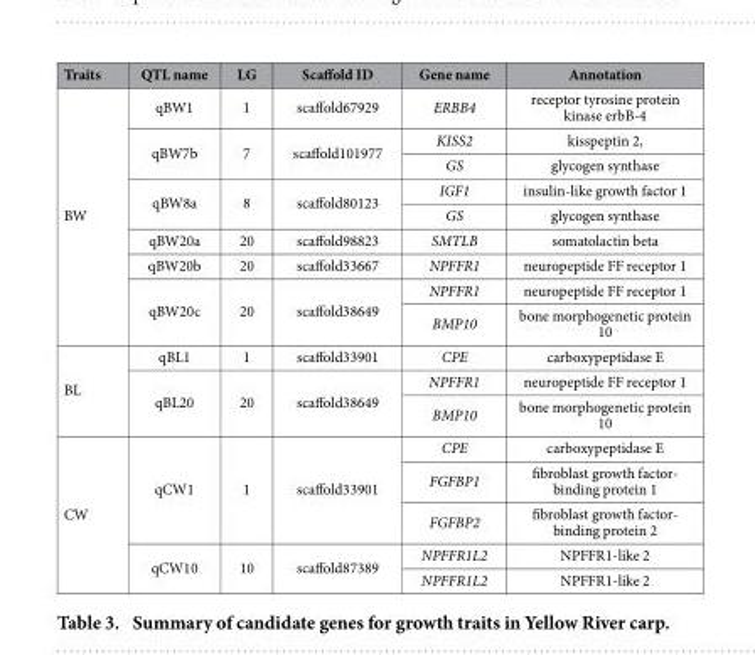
<table><thead><tr><td>Traits</td><td>QTL name</td><td>LG</td><td>Scaffold ID</td><td>Gene name</td><td>Annotation</td></tr></thead><tbody><tr><td rowspan="9">BW</td><td>qBW1</td><td>1</td><td>scaffold67929</td><td>ERBB4</td><td>receptor tyrosine protein kinase erbB-4</td></tr><tr><td rowspan="2">qBW7b</td><td rowspan="2">7</td><td rowspan="2">scaffold101977</td><td>KISS2</td><td>kisspeptin 2,</td></tr><tr><td>GS</td><td>glycogen synthase</td></tr><tr><td rowspan="2">qBW8a</td><td rowspan="2">8</td><td rowspan="2">scaffold80123</td><td>IGF1</td><td>insulin-like growth factor 1</td></tr><tr><td>GS</td><td>glycogen synthase</td></tr><tr><td>qBW20a</td><td>20</td><td>scaffold98823</td><td>SMTLB</td><td>somatolactin beta</td></tr><tr><td>qBW20b</td><td>20</td><td>scaffold33667</td><td>NPFFR1</td><td>neuropeptide FF receptor 1</td></tr><tr><td rowspan="2">qBW20c</td><td rowspan="2">20</td><td rowspan="2">scaffold38649</td><td>NPFFR1</td><td>neuropeptide FF receptor 1</td></tr><tr><td>BMP10</td><td>bone morphogenetic protein 10</td></tr><tr><td rowspan="3">BL</td><td>qBL1</td><td>1</td><td>scaffold33901</td><td>CPE</td><td>carboxypeptidase E</td></tr><tr><td rowspan="2">qBL20</td><td rowspan="2">20</td><td rowspan="2">scaffold38649</td><td>NPFFR1</td><td>neuropeptide FF receptor 1</td></tr><tr><td>BMP10</td><td>bone morphogenetic protein 10</td></tr><tr><td rowspan="5">CW</td><td rowspan="3">qCW1</td><td rowspan="3">1</td><td rowspan="3">scaffold33901</td><td>CPE</td><td>carboxypeptidase E</td></tr><tr><td>FGFBP1</td><td>fibroblast growth factor- binding protein 1</td></tr><tr><td>FGFBP2</td><td>fibroblast growth factor- binding protein 2</td></tr><tr><td rowspan="2">qCW10</td><td rowspan="2">10</td><td rowspan="2">scaffold87389</td><td>NPFFR1L2</td><td>NPFFR1-like 2</td></tr><tr><td>NPFFR1L2</td><td>NPFFR1-like 2</td></tr></tbody></table>